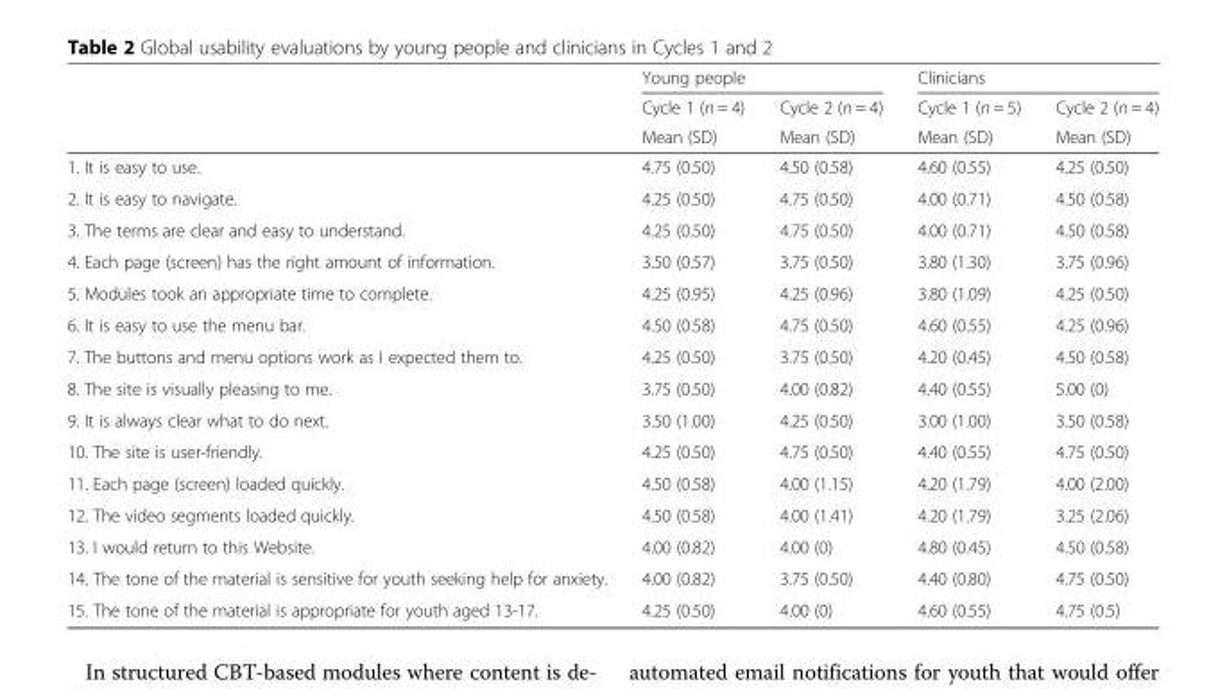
<table><thead><tr><td rowspan="3"></td><td colspan="2">Young people</td><td colspan="2">Clinicians</td></tr><tr><td rowspan="2">Cycle 1 (n = 4) Mean (SD)</td><td rowspan="2">Cycle 2 (n = 4) Mean (SD)</td><td rowspan="2">Cycle 1 (n = 5) Mean (SD)</td><td rowspan="2">Cycle 2 (n = 4) Mean (SD)</td></tr><tr></tr></thead><tbody><tr><td>1. It is easy to use.</td><td>4.75 (0.50)</td><td>4.50 (0.58)</td><td>4.60 (0.55)</td><td>4.25 (0.50)</td></tr><tr><td>2. It is easy to navigate.</td><td>4.25 (0.50)</td><td>4.75 (0.50)</td><td>4.00 (0.71)</td><td>4.50 (0.58)</td></tr><tr><td>3. The terms are clear and easy to understand.</td><td>4.25 (0.50)</td><td>4.75 (0.50)</td><td>4.00 (0.71)</td><td>4.50 (0.58)</td></tr><tr><td>4. Each page (screen) has the right amount of information.</td><td>3.50 (0.57)</td><td>3.75 (0.50)</td><td>3.80 (1.30)</td><td>3.75 (0.96)</td></tr><tr><td>5. Modules took an appropriate time to complete.</td><td>4.25 (0.95)</td><td>4.25 (0.96)</td><td>3.80 (1.09)</td><td>4.25 (0.50)</td></tr><tr><td>6. It is easy to use the menu bar.</td><td>4.50 (0.58)</td><td>4.75 (0.50)</td><td>4.60 (0.55)</td><td>4.25 (0.96)</td></tr><tr><td>7. The buttons and menu options work as I expected them to.</td><td>4.25 (0.50)</td><td>3.75 (0.50)</td><td>4.20 (0.45)</td><td>4.50 (0.58)</td></tr><tr><td>8. The site is visually pleasing to me.</td><td>3.75 (0.50)</td><td>4.00 (0.82)</td><td>4.40 (0.55)</td><td>5.00 (0)</td></tr><tr><td>9. It is always clear what to do next.</td><td>3.50 (1.00)</td><td>4.25 (0.50)</td><td>3.00 (1.00)</td><td>3.50 (0.58)</td></tr><tr><td>10. The site is user-friendly.</td><td>4.25 (0.50)</td><td>4.75 (0.50)</td><td>4.40 (0.55)</td><td>4.75 (0.50)</td></tr><tr><td>11. Each page (screen) loaded quickly.</td><td>4.50 (0.58)</td><td>4.00 (1.15)</td><td>4.20 (1.79)</td><td>4.00 (2.00)</td></tr><tr><td>12. The video segments loaded quickly.</td><td>4.50 (0.58)</td><td>4.00 (1.41)</td><td>4.20 (1.79)</td><td>3.25 (2.06)</td></tr><tr><td>13. I would return to this Website.</td><td>4.00 (0.82)</td><td>4.00 (0)</td><td>4.80 (0.45)</td><td>4.50 (0.58)</td></tr><tr><td>14. The tone of the material is sensitive for youth seeking help for anxiety.</td><td>4.00 (0.82)</td><td>3.75 (0.50)</td><td>4.40 (0.80)</td><td>4.75 (0.50)</td></tr><tr><td>15. The tone of the material is appropriate for youth aged 13-17.</td><td>4.25 (0.50)</td><td>4.00 (0)</td><td>4.60 (0.55)</td><td>4.75 (0.5)</td></tr></tbody></table>